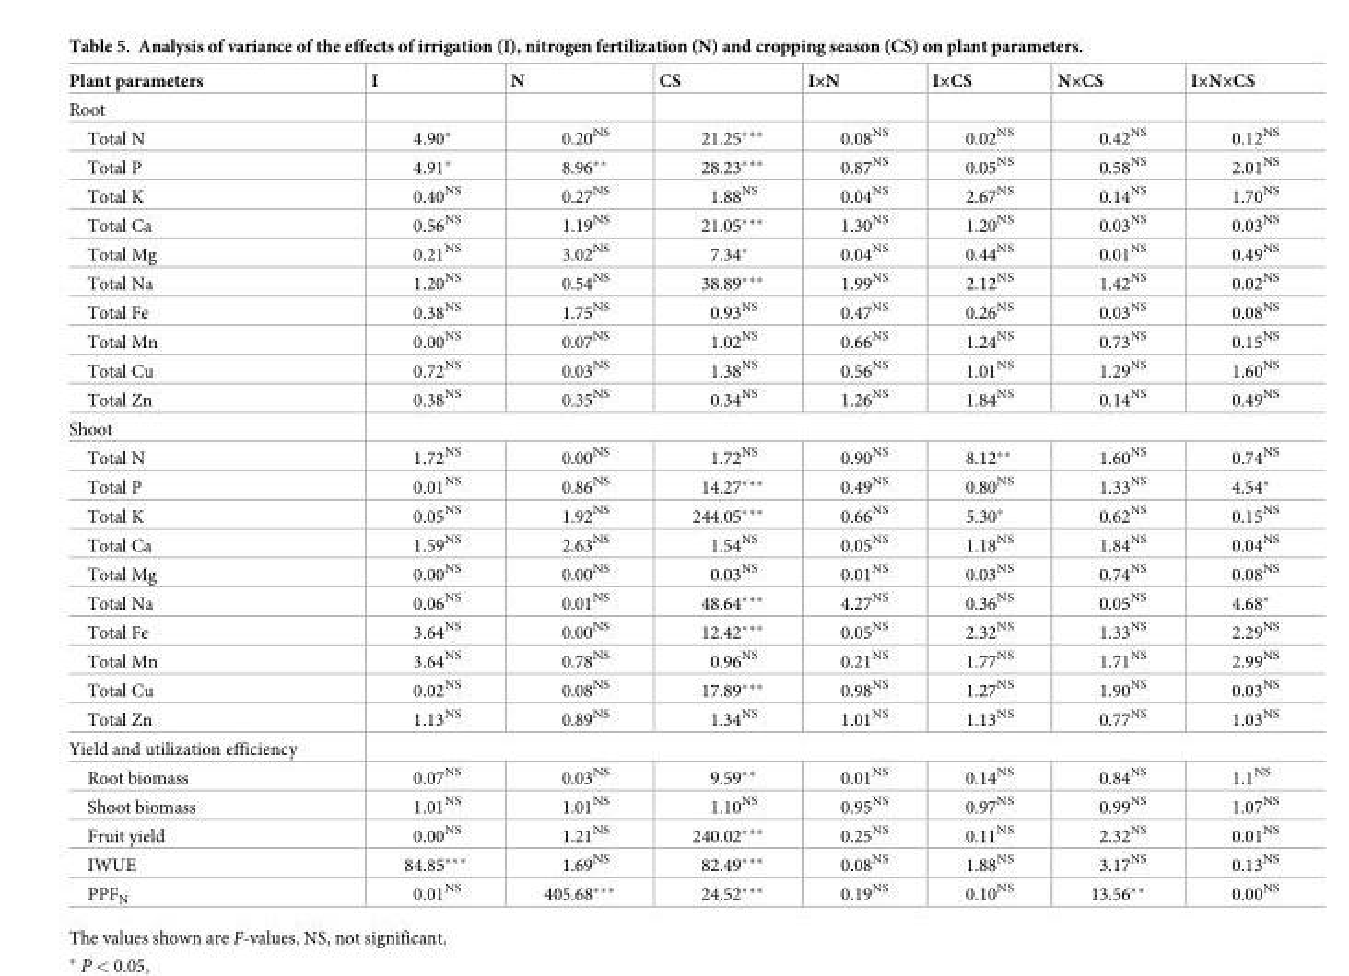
<table><thead><tr><td>Plant parameters</td><td>I</td><td>N</td><td>CS</td><td>I×N</td><td>I×CS</td><td>N×CS</td><td>I×N×CS</td></tr></thead><tbody><tr><td colspan="8">Root</td></tr><tr><td>Total N</td><td>4.90*</td><td>0.20<sup>NS</sup></td><td>21.25***</td><td>0.08<sup>NS</sup></td><td>0.02<sup>NS</sup></td><td>0.42<sup>NS</sup></td><td>0.12<sup>NS</sup></td></tr><tr><td>Total P</td><td>4.91*</td><td>8.96**</td><td>28.23***</td><td>0.87<sup>NS</sup></td><td>0.05<sup>NS</sup></td><td>0.58<sup>NS</sup></td><td>2.01<sup>NS</sup></td></tr><tr><td>Total K</td><td>0.40<sup>NS</sup></td><td>0.27<sup>NS</sup></td><td>1.88<sup>NS</sup></td><td>0.04<sup>NS</sup></td><td>2.67<sup>NS</sup></td><td>0.14<sup>NS</sup></td><td>1.70<sup>NS</sup></td></tr><tr><td>Total Ca</td><td>0.56<sup>NS</sup></td><td>1.19<sup>NS</sup></td><td>21.05***</td><td>1.30<sup>NS</sup></td><td>1.20<sup>NS</sup></td><td>0.03<sup>NS</sup></td><td>0.03<sup>NS</sup></td></tr><tr><td>Total Mg</td><td>0.21<sup>NS</sup></td><td>3.02<sup>NS</sup></td><td>7.34*</td><td>0.04<sup>NS</sup></td><td>0.44<sup>NS</sup></td><td>0.01<sup>NS</sup></td><td>0.49<sup>NS</sup></td></tr><tr><td>Total Na</td><td>1.20<sup>NS</sup></td><td>0.54<sup>NS</sup></td><td>38.89***</td><td>1.99<sup>NS</sup></td><td>2.12<sup>NS</sup></td><td>1.42<sup>NS</sup></td><td>0.02<sup>NS</sup></td></tr><tr><td>Total Fe</td><td>0.38<sup>NS</sup></td><td>1.75<sup>NS</sup></td><td>0.93<sup>NS</sup></td><td>0.47<sup>NS</sup></td><td>0.26<sup>NS</sup></td><td>0.03<sup>NS</sup></td><td>0.08<sup>NS</sup></td></tr><tr><td>Total Mn</td><td>0.00<sup>NS</sup></td><td>0.07<sup>NS</sup></td><td>1.02<sup>NS</sup></td><td>0.66<sup>NS</sup></td><td>1.24<sup>NS</sup></td><td>0.73<sup>NS</sup></td><td>0.15<sup>NS</sup></td></tr><tr><td>Total Cu</td><td>0.72<sup>NS</sup></td><td>0.03<sup>NS</sup></td><td>1.38<sup>NS</sup></td><td>0.56<sup>NS</sup></td><td>1.01<sup>NS</sup></td><td>1.29<sup>NS</sup></td><td>1.60<sup>NS</sup></td></tr><tr><td>Total Zn</td><td>0.38<sup>NS</sup></td><td>0.35<sup>NS</sup></td><td>0.34<sup>NS</sup></td><td>1.26<sup>NS</sup></td><td>1.84<sup>NS</sup></td><td>0.14<sup>NS</sup></td><td>0.49<sup>NS</sup></td></tr><tr><td colspan="8">Shoot</td></tr><tr><td>Total N</td><td>1.72<sup>NS</sup></td><td>0.00<sup>NS</sup></td><td>1.72<sup>NS</sup></td><td>0.90<sup>NS</sup></td><td>8.12**</td><td>1.60<sup>NS</sup></td><td>0.74<sup>NS</sup></td></tr><tr><td>Total P</td><td>0.01<sup>NS</sup></td><td>0.86<sup>NS</sup></td><td>14.27***</td><td>0.49<sup>NS</sup></td><td>0.80<sup>NS</sup></td><td>1.33<sup>NS</sup></td><td>4.54*</td></tr><tr><td>Total K</td><td>0.05<sup>NS</sup></td><td>1.92<sup>NS</sup></td><td>244.05***</td><td>0.66<sup>NS</sup></td><td>5.30*</td><td>0.62<sup>NS</sup></td><td>0.15<sup>NS</sup></td></tr><tr><td>Total Ca</td><td>1.59<sup>NS</sup></td><td>2.63<sup>NS</sup></td><td>1.54<sup>NS</sup></td><td>0.05<sup>NS</sup></td><td>1.18<sup>NS</sup></td><td>1.84<sup>NS</sup></td><td>0.04<sup>NS</sup></td></tr><tr><td>Total Mg</td><td>0.00<sup>NS</sup></td><td>0.00<sup>NS</sup></td><td>0.03<sup>NS</sup></td><td>0.01<sup>NS</sup></td><td>0.03<sup>NS</sup></td><td>0.74<sup>NS</sup></td><td>0.08<sup>NS</sup></td></tr><tr><td>Total Na</td><td>0.06<sup>NS</sup></td><td>0.01<sup>NS</sup></td><td>48.64***</td><td>4.27<sup>NS</sup></td><td>0.36<sup>NS</sup></td><td>0.05<sup>NS</sup></td><td>4.68*</td></tr><tr><td>Total Fe</td><td>3.64<sup>NS</sup></td><td>0.00<sup>NS</sup></td><td>12.42***</td><td>0.05<sup>NS</sup></td><td>2.32<sup>NS</sup></td><td>1.33<sup>NS</sup></td><td>2.29<sup>NS</sup></td></tr><tr><td>Total Mn</td><td>3.64<sup>NS</sup></td><td>0.78<sup>NS</sup></td><td>0.96<sup>NS</sup></td><td>0.21<sup>NS</sup></td><td>1.77<sup>NS</sup></td><td>1.71<sup>NS</sup></td><td>2.99<sup>NS</sup></td></tr><tr><td>Total Cu</td><td>0.02<sup>NS</sup></td><td>0.08<sup>NS</sup></td><td>17.89***</td><td>0.98<sup>NS</sup></td><td>1.27<sup>NS</sup></td><td>1.90<sup>NS</sup></td><td>0.03<sup>NS</sup></td></tr><tr><td>Total Zn</td><td>1.13<sup>NS</sup></td><td>0.89<sup>NS</sup></td><td>1.34<sup>NS</sup></td><td>1.01<sup>NS</sup></td><td>1.13<sup>NS</sup></td><td>0.77<sup>NS</sup></td><td>1.03<sup>NS</sup></td></tr><tr><td colspan="8">Yield and utilization efficiency</td></tr><tr><td>Root biomass</td><td>0.07<sup>NS</sup></td><td>0.03<sup>NS</sup></td><td>9.59**</td><td>0.01<sup>NS</sup></td><td>0.14<sup>NS</sup></td><td>0.84<sup>NS</sup></td><td>1.1<sup>NS</sup></td></tr><tr><td>Shoot biomass</td><td>1.01<sup>NS</sup></td><td>1.01<sup>NS</sup></td><td>1.10<sup>NS</sup></td><td>0.95<sup>NS</sup></td><td>0.97<sup>NS</sup></td><td>0.99<sup>NS</sup></td><td>1.07<sup>NS</sup></td></tr><tr><td>Fruit yield</td><td>0.00<sup>NS</sup></td><td>1.21<sup>NS</sup></td><td>240.02***</td><td>0.25<sup>NS</sup></td><td>0.11<sup>NS</sup></td><td>2.32<sup>NS</sup></td><td>0.01<sup>NS</sup></td></tr><tr><td>IWUE</td><td>84.85***</td><td>1.69<sup>NS</sup></td><td>82.49***</td><td>0.08<sup>NS</sup></td><td>1.88<sup>NS</sup></td><td>3.17<sup>NS</sup></td><td>0.13<sup>NS</sup></td></tr><tr><td>PPF<sub>N</sub></td><td>0.01<sup>NS</sup></td><td>405.68***</td><td>24.52***</td><td>0.19<sup>NS</sup></td><td>0.10<sup>NS</sup></td><td>13.56**</td><td>0.00<sup>NS</sup></td></tr></tbody></table>